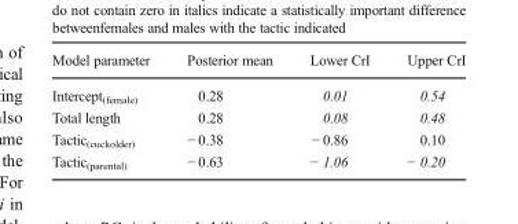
<table><thead><tr><td>Model parameter</td><td>Posterior mean</td><td>Lower CrI</td><td>Upper CrI</td></tr></thead><tbody><tr><td>Intercept<sub>(female)</sub></td><td>0.28</td><td>0.01</td><td>0.54</td></tr><tr><td>Total length</td><td>0.28</td><td>0.08</td><td>0.48</td></tr><tr><td>Tactic<sub>(cuckolder)</sub></td><td>− 0.38</td><td>− 0.86</td><td>0.10</td></tr><tr><td>Tactic<sub>(parental)</sub></td><td>− 0.63</td><td>− 1.06</td><td>− 0.20</td></tr></tbody></table>